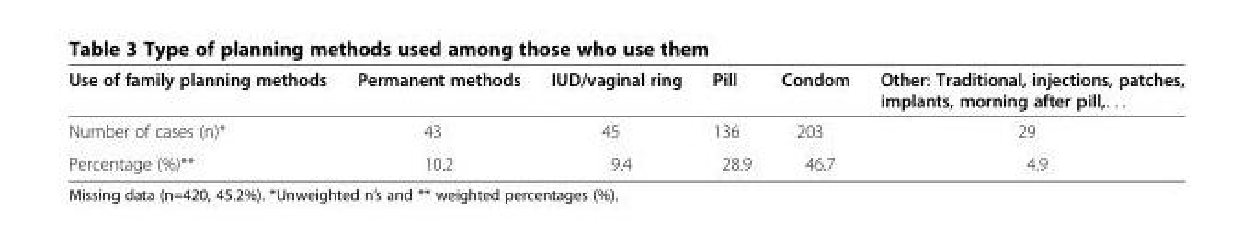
<table><thead><tr><td>Use of family planning methods</td><td>Permanent methods</td><td>IUD/vaginal ring</td><td>Pill</td><td>Condom</td><td>Other: Traditional, injections, patches, implants, morning after pill,. . .</td></tr></thead><tbody><tr><td>Number of cases (n)*</td><td>43</td><td>45</td><td>136</td><td>203</td><td>29</td></tr><tr><td>Percentage (%)**</td><td>10.2</td><td>9.4</td><td>28.9</td><td>46.7</td><td>4.9</td></tr></tbody></table>